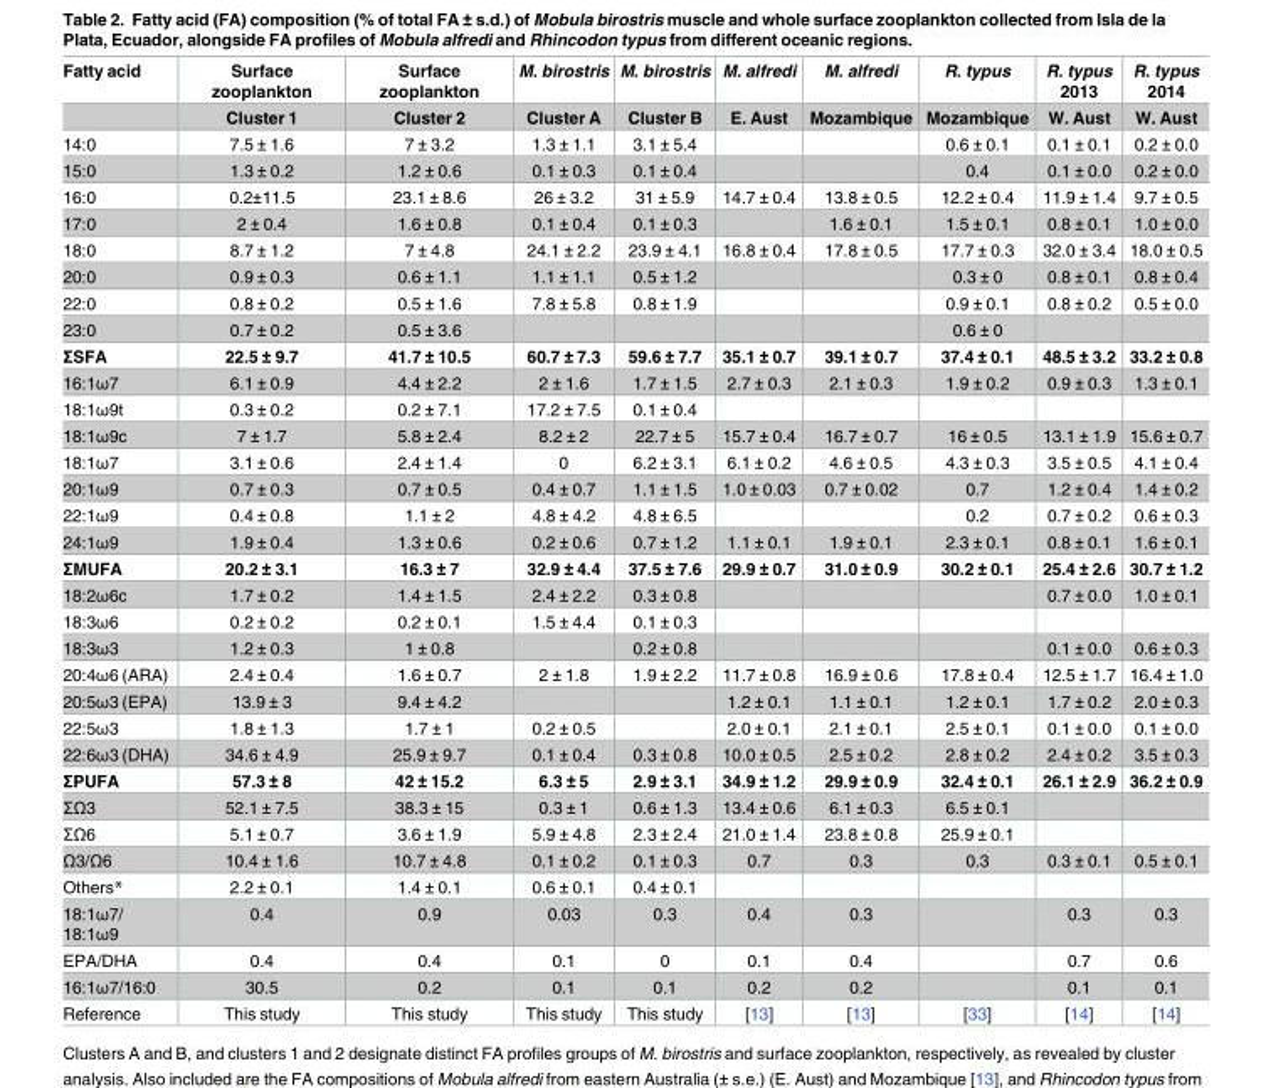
<table><thead><tr><td>Fatty acid</td><td>Surface zooplankton</td><td>Surface zooplankton</td><td>M. birostris</td><td>M. birostris</td><td>M. alfredi</td><td>M. alfredi</td><td>R. typus</td><td>R. typus 2013</td><td>R. typus 2014</td></tr></thead><tbody><tr><td></td><td>Cluster 1</td><td>Cluster 2</td><td>Cluster A</td><td>Cluster B</td><td>E. Aust</td><td>Mozambique</td><td>Mozambique</td><td>W. Aust</td><td>W. Aust</td></tr><tr><td>14:0</td><td>7.5 ± 1.6</td><td>7 ± 3.2</td><td>1.3 ± 1.1</td><td>3.1 ± 5.4</td><td></td><td></td><td>0.6 ± 0.1</td><td>0.1 ± 0.1</td><td>0.2 ± 0.0</td></tr><tr><td>15:0</td><td>1.3 ± 0.2</td><td>1.2 ± 0.6</td><td>0.1 ± 0.3</td><td>0.1 ± 0.4</td><td></td><td></td><td>0.4</td><td>0.1 ± 0.0</td><td>0.2 ± 0.0</td></tr><tr><td>16:0</td><td>0.2±11.5</td><td>23.1 ± 8.6</td><td>26 ± 3.2</td><td>31 ± 5.9</td><td>14.7 ± 0.4</td><td>13.8 ± 0.5</td><td>12.2 ± 0.4</td><td>11.9 ± 1.4</td><td>9.7 ± 0.5</td></tr><tr><td>17:0</td><td>2 ± 0.4</td><td>1.6 ± 0.8</td><td>0.1 ± 0.4</td><td>0.1 ± 0.3</td><td></td><td>1.6 ± 0.1</td><td>1.5 ± 0.1</td><td>0.8 ± 0.1</td><td>1.0 ± 0.0</td></tr><tr><td>18:0</td><td>8.7 ± 1.2</td><td>7 ± 4.8</td><td>24.1 ± 2.2</td><td>23.9 ± 4.1</td><td>16.8 ± 0.4</td><td>17.8 ± 0.5</td><td>17.7 ± 0.3</td><td>32.0 ± 3.4</td><td>18.0 ± 0.5</td></tr><tr><td>20:0</td><td>0.9 ± 0.3</td><td>0.6 ± 1.1</td><td>1.1 ± 1.1</td><td>0.5 ± 1.2</td><td></td><td></td><td>0.3 ± 0</td><td>0.8 ± 0.1</td><td>0.8 ± 0.4</td></tr><tr><td>22:0</td><td>0.8 ± 0.2</td><td>0.5 ± 1.6</td><td>7.8 ± 5.8</td><td>0.8 ± 1.9</td><td></td><td></td><td>0.9 ± 0.1</td><td>0.8 ± 0.2</td><td>0.5 ± 0.0</td></tr><tr><td>23:0</td><td>0.7 ± 0.2</td><td>0.5 ± 3.6</td><td></td><td></td><td></td><td></td><td>0.6 ± 0</td><td></td><td></td></tr><tr><td>ΣSFA</td><td>22.5 ± 9.7</td><td>41.7 ± 10.5</td><td>60.7 ± 7.3</td><td>59.6 ± 7.7</td><td>35.1 ± 0.7</td><td>39.1 ± 0.7</td><td>37.4 ± 0.1</td><td>48.5 ± 3.2</td><td>33.2 ± 0.8</td></tr><tr><td>16:1ω7</td><td>6.1 ± 0.9</td><td>4.4 ± 2.2</td><td>2 ± 1.6</td><td>1.7 ± 1.5</td><td>2.7 ± 0.3</td><td>2.1 ± 0.3</td><td>1.9 ± 0.2</td><td>0.9 ± 0.3</td><td>1.3 ± 0.1</td></tr><tr><td>18:1ω9t</td><td>0.3 ± 0.2</td><td>0.2 ± 7.1</td><td>17.2 ± 7.5</td><td>0.1 ± 0.4</td><td></td><td></td><td></td><td></td><td></td></tr><tr><td>18:1ω9c</td><td>7 ± 1.7</td><td>5.8 ± 2.4</td><td>8.2 ± 2</td><td>22.7 ± 5</td><td>15.7 ± 0.4</td><td>16.7 ± 0.7</td><td>16 ± 0.5</td><td>13.1 ± 1.9</td><td>15.6 ± 0.7</td></tr><tr><td>18:1ω7</td><td>3.1 ± 0.6</td><td>2.4 ± 1.4</td><td>0</td><td>6.2 ± 3.1</td><td>6.1 ± 0.2</td><td>4.6 ± 0.5</td><td>4.3 ± 0.3</td><td>3.5 ± 0.5</td><td>4.1 ± 0.4</td></tr><tr><td>20:1ω9</td><td>0.7 ± 0.3</td><td>0.7 ± 0.5</td><td>0.4 ± 0.7</td><td>1.1 ± 1.5</td><td>1.0 ± 0.03</td><td>0.7 ± 0.02</td><td>0.7</td><td>1.2 ± 0.4</td><td>1.4 ± 0.2</td></tr><tr><td>22:1ω9</td><td>0.4 ± 0.8</td><td>1.1 ± 2</td><td>4.8 ± 4.2</td><td>4.8 ± 6.5</td><td></td><td></td><td>0.2</td><td>0.7 ± 0.2</td><td>0.6 ± 0.3</td></tr><tr><td>24:1ω9</td><td>1.9 ± 0.4</td><td>1.3 ± 0.6</td><td>0.2 ± 0.6</td><td>0.7 ± 1.2</td><td>1.1 ± 0.1</td><td>1.9 ± 0.1</td><td>2.3 ± 0.1</td><td>0.8 ± 0.1</td><td>1.6 ± 0.1</td></tr><tr><td>ΣMUFA</td><td>20.2 ± 3.1</td><td>16.3 ± 7</td><td>32.9 ± 4.4</td><td>37.5 ± 7.6</td><td>29.9 ± 0.7</td><td>31.0 ± 0.9</td><td>30.2 ± 0.1</td><td>25.4 ± 2.6</td><td>30.7 ± 1.2</td></tr><tr><td>18:2ω6c</td><td>1.7 ± 0.2</td><td>1.4 ± 1.5</td><td>2.4 ± 2.2</td><td>0.3 ± 0.8</td><td></td><td></td><td></td><td>0.7 ± 0.0</td><td>1.0 ± 0.1</td></tr><tr><td>18:3ω6</td><td>0.2 ± 0.2</td><td>0.2 ± 0.1</td><td>1.5 ± 4.4</td><td>0.1 ± 0.3</td><td></td><td></td><td></td><td></td><td></td></tr><tr><td>18:3ω3</td><td>1.2 ± 0.3</td><td>1 ± 0.8</td><td></td><td>0.2 ± 0.8</td><td></td><td></td><td></td><td>0.1 ± 0.0</td><td>0.6 ± 0.3</td></tr><tr><td>20:4ω6 (ARA)</td><td>2.4 ± 0.4</td><td>1.6 ± 0.7</td><td>2 ± 1.8</td><td>1.9 ± 2.2</td><td>11.7 ± 0.8</td><td>16.9 ± 0.6</td><td>17.8 ± 0.4</td><td>12.5 ± 1.7</td><td>16.4 ± 1.0</td></tr><tr><td>20:5ω3 (EPA)</td><td>13.9 ± 3</td><td>9.4 ± 4.2</td><td></td><td></td><td>1.2 ± 0.1</td><td>1.1 ± 0.1</td><td>1.2 ± 0.1</td><td>1.7 ± 0.2</td><td>2.0 ± 0.3</td></tr><tr><td>22:5ω3</td><td>1.8 ± 1.3</td><td>1.7 ± 1</td><td>0.2 ± 0.5</td><td></td><td>2.0 ± 0.1</td><td>2.1 ± 0.1</td><td>2.5 ± 0.1</td><td>0.1 ± 0.0</td><td>0.1 ± 0.0</td></tr><tr><td>22:6ω3 (DHA)</td><td>34.6 ± 4.9</td><td>25.9 ± 9.7</td><td>0.1 ± 0.4</td><td>0.3 ± 0.8</td><td>10.0 ± 0.5</td><td>2.5 ± 0.2</td><td>2.8 ± 0.2</td><td>2.4 ± 0.2</td><td>3.5 ± 0.3</td></tr><tr><td>ΣPUFA</td><td>57.3 ± 8</td><td>42 ± 15.2</td><td>6.3 ± 5</td><td>2.9 ± 3.1</td><td>34.9 ± 1.2</td><td>29.9 ± 0.9</td><td>32.4 ± 0.1</td><td>26.1 ± 2.9</td><td>36.2 ± 0.9</td></tr><tr><td>ΣΩ3</td><td>52.1 ± 7.5</td><td>38.3 ± 15</td><td>0.3 ± 1</td><td>0.6 ± 1.3</td><td>13.4 ± 0.6</td><td>6.1 ± 0.3</td><td>6.5 ± 0.1</td><td></td><td></td></tr><tr><td>ΣΩ6</td><td>5.1 ± 0.7</td><td>3.6 ± 1.9</td><td>5.9 ± 4.8</td><td>2.3 ± 2.4</td><td>21.0 ± 1.4</td><td>23.8 ± 0.8</td><td>25.9 ± 0.1</td><td></td><td></td></tr><tr><td>Ω3/Ω6</td><td>10.4 ± 1.6</td><td>10.7 ± 4.8</td><td>0.1 ± 0.2</td><td>0.1 ± 0.3</td><td>0.7</td><td>0.3</td><td>0.3</td><td>0.3 ± 0.1</td><td>0.5 ± 0.1</td></tr><tr><td>Others*</td><td>2.2 ± 0.1</td><td>1.4 ± 0.1</td><td>0.6 ± 0.1</td><td>0.4 ± 0.1</td><td></td><td></td><td></td><td></td><td></td></tr><tr><td>18:1ω7/ 18:1ω9</td><td>0.4</td><td>0.9</td><td>0.03</td><td>0.3</td><td>0.4</td><td>0.3</td><td></td><td>0.3</td><td>0.3</td></tr><tr><td>EPA/DHA</td><td>0.4</td><td>0.4</td><td>0.1</td><td>0</td><td>0.1</td><td>0.4</td><td></td><td>0.7</td><td>0.6</td></tr><tr><td>16:1ω7/16:0</td><td>30.5</td><td>0.2</td><td>0.1</td><td>0.1</td><td>0.2</td><td>0.2</td><td></td><td>0.1</td><td>0.1</td></tr><tr><td>Reference</td><td>This study</td><td>This study</td><td>This study</td><td>This study</td><td>[13]</td><td>[13]</td><td>[33]</td><td>[14]</td><td>[14]</td></tr></tbody></table>